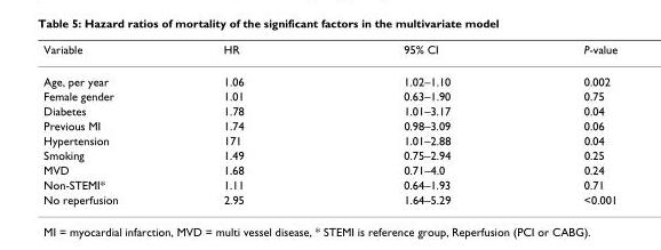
<table><thead><tr><td>Variable</td><td>HR</td><td>95% CI</td><td>P-value</td></tr></thead><tbody><tr><td>Age, per year</td><td>1.06</td><td>1.02–1.10</td><td>0.002</td></tr><tr><td>Female gender</td><td>1.01</td><td>0.63–1.90</td><td>0.75</td></tr><tr><td>Diabetes</td><td>1.78</td><td>1.01–3.17</td><td>0.04</td></tr><tr><td>Previous MI</td><td>1.74</td><td>0.98–3.09</td><td>0.06</td></tr><tr><td>Hypertension</td><td>171</td><td>1.01–2.88</td><td>0.04</td></tr><tr><td>Smoking</td><td>1.49</td><td>0.75–2.94</td><td>0.25</td></tr><tr><td>MVD</td><td>1.68</td><td>0.71–4.0</td><td>0.24</td></tr><tr><td>Non-STEMI*</td><td>1.11</td><td>0.64–1.93</td><td>0.71</td></tr><tr><td>No reperfusion</td><td>2.95</td><td>1.64–5.29</td><td>&lt;0.001</td></tr></tbody></table>